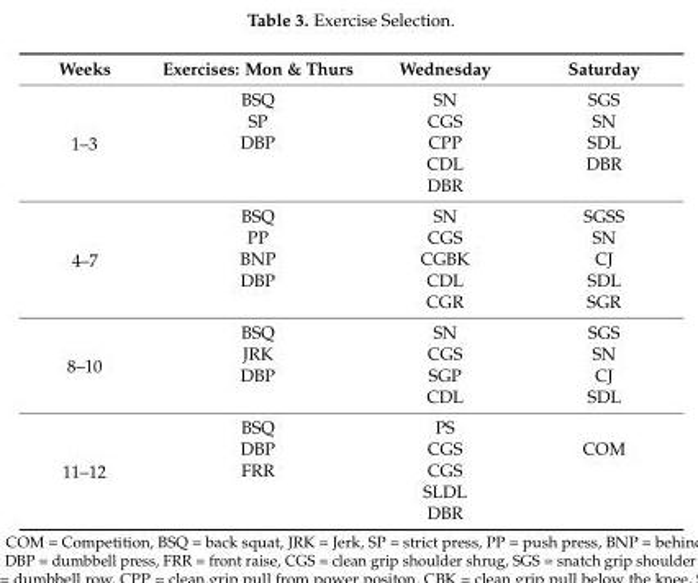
<table><thead><tr><td>Weeks</td><td>Exercises: Mon &amp; Thurs</td><td>Wednesday</td><td>Saturday</td></tr></thead><tbody><tr><td rowspan="5">1–3</td><td>BSQ</td><td>SN</td><td>SGS</td></tr><tr><td>SP</td><td>CGS</td><td>SN</td></tr><tr><td>DBP</td><td>CPP</td><td>SDL</td></tr><tr><td rowspan="2"></td><td>CDL</td><td>DBR</td></tr><tr><td>DBR</td><td></td></tr><tr><td rowspan="5">4–7</td><td>BSQ</td><td>SN</td><td>SGSS</td></tr><tr><td>PP</td><td>CGS</td><td>SN</td></tr><tr><td>BNP</td><td>CGBK</td><td>CJ</td></tr><tr><td>DBP</td><td>CDL</td><td>SDL</td></tr><tr><td></td><td>CGR</td><td>SGR</td></tr><tr><td rowspan="4">8–10</td><td>BSQ</td><td>SN</td><td>SGS</td></tr><tr><td>JRK</td><td>CGS</td><td>SN</td></tr><tr><td>DBP</td><td>SGP</td><td>CJ</td></tr><tr><td></td><td>CDL</td><td>SDL</td></tr><tr><td rowspan="5">11–12</td><td>BSQ</td><td>PS</td><td></td></tr><tr><td>DBP</td><td>CGS</td><td>COM</td></tr><tr><td>FRR</td><td>CGS</td><td></td></tr><tr><td rowspan="2"></td><td>SLDL</td><td></td></tr><tr><td>DBR</td><td></td></tr></tbody></table>